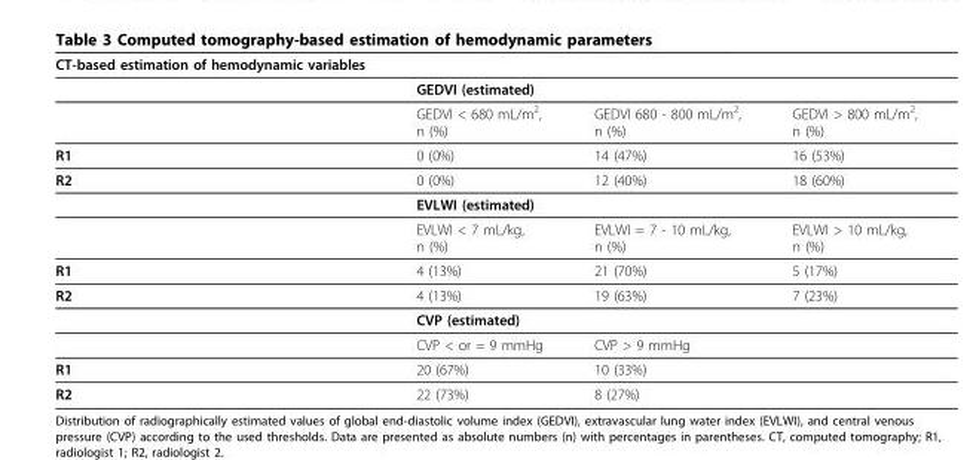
<table><thead><tr><td>CT-based estimation of hemodynamic variables</td><td></td><td></td><td></td></tr></thead><tbody><tr><td></td><td>GEDVI (estimated)</td><td></td><td></td></tr><tr><td></td><td>GEDVI &lt; 680 mL/m<sup>2</sup>, n (%)</td><td>GEDVI 680 - 800 mL/m<sup>2</sup>, n (%)</td><td>GEDVI &gt; 800 mL/m<sup>2</sup>, n (%)</td></tr><tr><td>R1</td><td>0 (0%)</td><td>14 (47%)</td><td>16 (53%)</td></tr><tr><td rowspan="3">R2</td><td>0 (0%)</td><td>12 (40%)</td><td>18 (60%)</td></tr><tr><td>EVLWI (estimated)</td><td></td><td></td></tr><tr><td>EVLWI &lt; 7 mL/kg, n (%)</td><td>EVLWI = 7 - 10 mL/kg, n (%)</td><td>EVLWI &gt; 10 mL/kg, n (%)</td></tr><tr><td>R1</td><td>4 (13%)</td><td>21 (70%)</td><td>5 (17%)</td></tr><tr><td rowspan="3">R2</td><td>4 (13%)</td><td>19 (63%)</td><td>7 (23%)</td></tr><tr><td>CVP (estimated)</td><td></td><td></td></tr><tr><td>CVP &lt; or = 9 mmHg</td><td>CVP &gt; 9 mmHg</td><td></td></tr><tr><td>R1</td><td>20 (67%)</td><td>10 (33%)</td><td></td></tr><tr><td>R2</td><td>22 (73%)</td><td>8 (27%)</td><td></td></tr></tbody></table>